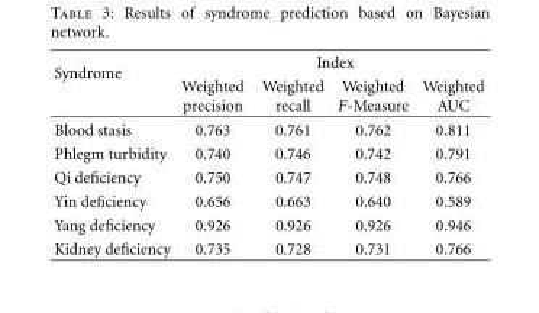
<table><thead><tr><td rowspan="2">Syndrome</td><td colspan="4">Index</td></tr><tr><td>Weighted precision</td><td>Weighted recall</td><td>Weighted F-Measure</td><td>Weighted AUC</td></tr></thead><tbody><tr><td>Blood stasis</td><td>0.763</td><td>0.761</td><td>0.762</td><td>0.811</td></tr><tr><td>Phlegm turbidity</td><td>0.740</td><td>0.746</td><td>0.742</td><td>0.791</td></tr><tr><td>Qi deficiency</td><td>0.750</td><td>0.747</td><td>0.748</td><td>0.766</td></tr><tr><td>Yin deficiency</td><td>0.656</td><td>0.663</td><td>0.640</td><td>0.589</td></tr><tr><td>Yang deficiency</td><td>0.926</td><td>0.926</td><td>0.926</td><td>0.946</td></tr><tr><td>Kidney deficiency</td><td>0.735</td><td>0.728</td><td>0.731</td><td>0.766</td></tr></tbody></table>